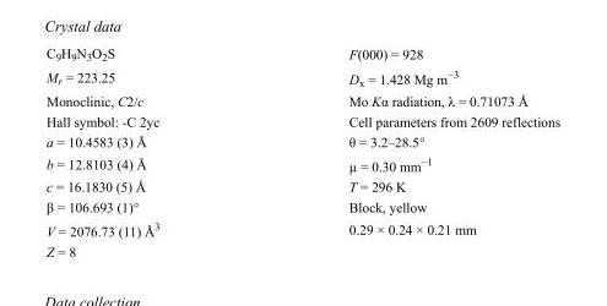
<table><tbody><tr><td>C<sub>9</sub>H<sub>9</sub>N<sub>3</sub>O<sub>2</sub>S</td><td>F(000) = 928</td></tr><tr><td>M<sub>r</sub> = 223.25</td><td>D<sub>x</sub> = 1.428 Mg m<sup>−3</sup></td></tr><tr><td>Monoclinic, C2/c</td><td>Mo Kα radiation, λ = 0.71073 Å</td></tr><tr><td>Hall symbol: -C 2yc</td><td>Cell parameters from 2609 reflections</td></tr><tr><td>a = 10.4583 (3) Å</td><td>θ = 3.2–28.5°</td></tr><tr><td>b = 12.8103 (4) Å</td><td>µ = 0.30 mm<sup>−1</sup></td></tr><tr><td>c = 16.1830 (5) Å</td><td>T = 296 K</td></tr><tr><td>β = 106.693 (1)°</td><td>Block, yellow</td></tr><tr><td>V = 2076.73 (11) Å<sup>3</sup></td><td>0.29 × 0.24 × 0.21 mm</td></tr><tr><td>Z = 8</td><td></td></tr></tbody></table>